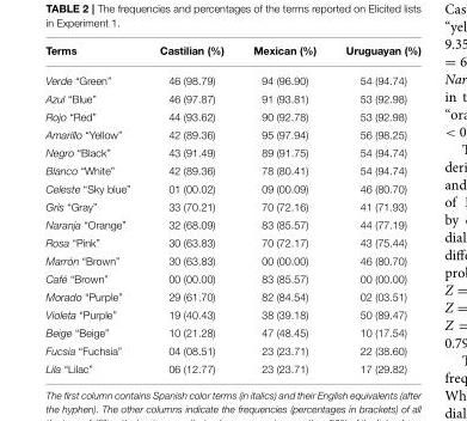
<table><thead><tr><td>Terms</td><td>Castilian (%)</td><td>Mexican (%)</td><td>Uruguayan (%)</td></tr></thead><tbody><tr><td>Verde “Green”</td><td>46 (98.79)</td><td>94 (96.90)</td><td>54 (94.74)</td></tr><tr><td>Azul “Blue”</td><td>46 (97.87)</td><td>91 (93.81)</td><td>53 (92.98)</td></tr><tr><td>Rojo “Red”</td><td>44 (93.62)</td><td>90 (92.78)</td><td>53 (92.98)</td></tr><tr><td>Amarillo “Yellow”</td><td>42 (89.36)</td><td>95 (97.94)</td><td>56 (98.25)</td></tr><tr><td>Negro “Black”</td><td>43 (91.49)</td><td>89 (91.75)</td><td>54 (94.74)</td></tr><tr><td>Blanco “White”</td><td>42 (89.36)</td><td>78 (80.41)</td><td>54 (94.74)</td></tr><tr><td>Celeste “Sky blue”</td><td>01 (00.02)</td><td>09 (00.09)</td><td>46 (80.70)</td></tr><tr><td>Gris “Gray”</td><td>33 (70.21)</td><td>70 (72.16)</td><td>41 (71.93)</td></tr><tr><td>Naranja “Orange”</td><td>32 (68.09)</td><td>83 (85.57)</td><td>44 (77.19)</td></tr><tr><td>Rosa “Pink”</td><td>30 (63.83)</td><td>70 (72.17)</td><td>43 (75.44)</td></tr><tr><td>Marrón “Brown”</td><td>30 (63.83)</td><td>00 (00.00)</td><td>46 (80.70)</td></tr><tr><td>Café “Brown”</td><td>00 (00.00)</td><td>83 (85.57)</td><td>00 (00.00)</td></tr><tr><td>Morado “Purple”</td><td>29 (61.70)</td><td>82 (84.54)</td><td>02 (03.51)</td></tr><tr><td>Violeta “Purple”</td><td>19 (40.43)</td><td>38 (39.18)</td><td>50 (89.47)</td></tr><tr><td>Beige “Beige”</td><td>10 (21.28)</td><td>47 (48.45)</td><td>10 (17.54)</td></tr><tr><td>Fucsia “Fuchsia”</td><td>04 (08.51)</td><td>23 (23.71)</td><td>22 (38.60)</td></tr><tr><td>Lila “Lilac”</td><td>06 (12.77)</td><td>23 (23.71)</td><td>17 (29.82)</td></tr></tbody></table>